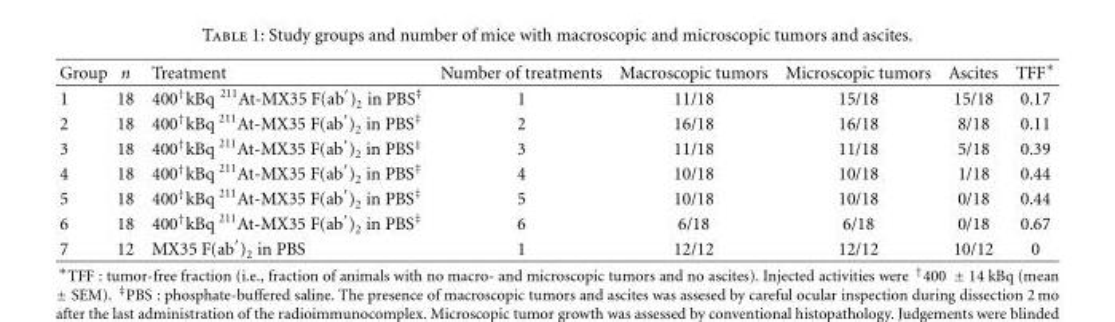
<table><thead><tr><td>Group</td><td>n</td><td>Treatment</td><td>Number of treatments</td><td>Macroscopic tumors</td><td>Microscopic tumors</td><td>Ascites</td><td>TFF∗</td></tr></thead><tbody><tr><td>1</td><td>18</td><td>400<sup>†</sup>kBq <sup>211</sup>At-MX35 F(ab′)<sub>2</sub> in PBS<sup>‡</sup></td><td>1</td><td>11/18</td><td>15/18</td><td>15/18</td><td>0.17</td></tr><tr><td>2</td><td>18</td><td>400<sup>†</sup>kBq <sup>211</sup>At-MX35 F(ab′)<sub>2</sub> in PBS<sup>‡</sup></td><td>2</td><td>16/18</td><td>16/18</td><td>8/18</td><td>0.11</td></tr><tr><td>3</td><td>18</td><td>400<sup>†</sup>kBq <sup>211</sup>At-MX35 F(ab′)<sub>2</sub> in PBS<sup>‡</sup></td><td>3</td><td>11/18</td><td>11/18</td><td>5/18</td><td>0.39</td></tr><tr><td>4</td><td>18</td><td>400<sup>†</sup>kBq <sup>211</sup>At-MX35 F(ab′)<sub>2</sub> in PBS<sup>‡</sup></td><td>4</td><td>10/18</td><td>10/18</td><td>1/18</td><td>0.44</td></tr><tr><td>5</td><td>18</td><td>400<sup>†</sup>kBq <sup>211</sup>At-MX35 F(ab′)<sub>2</sub> in PBS<sup>‡</sup></td><td>5</td><td>10/18</td><td>10/18</td><td>0/18</td><td>0.44</td></tr><tr><td>6</td><td>18</td><td>400<sup>†</sup>kBq <sup>211</sup>At-MX35 F(ab′)<sub>2</sub> in PBS<sup>‡</sup></td><td>6</td><td>6/18</td><td>6/18</td><td>0/18</td><td>0.67</td></tr><tr><td>7</td><td>12</td><td>MX35 F(ab′)<sub>2</sub> in PBS</td><td>1</td><td>12/12</td><td>12/12</td><td>10/12</td><td>0</td></tr></tbody></table>